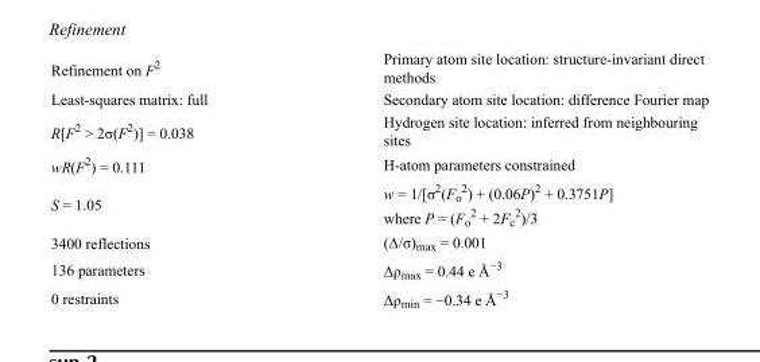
<table><tbody><tr><td>Refinement on F<sup>2</sup></td><td>Primary atom site location: structure-invariant direct methods</td></tr><tr><td>Least-squares matrix: full</td><td>Secondary atom site location: difference Fourier map</td></tr><tr><td>R[F<sup>2</sup> &gt; 2σ(F<sup>2</sup>)] = 0.038</td><td>Hydrogen site location: inferred from neighbouring sites</td></tr><tr><td>wR(F<sup>2</sup>) = 0.111</td><td>H-atom parameters constrained</td></tr><tr><td>S = 1.05</td><td>w = 1/[σ<sup>2</sup>(F<sub>o</sub> <sup>2</sup>) + (0.06P)<sup>2</sup> + 0.3751P] where P = (F<sub>o</sub> <sup>2</sup> + 2F<sub>c</sub> <sup>2</sup>)/3</td></tr><tr><td>3400 reflections</td><td>(Δ/σ)<sub>max</sub> = 0.001</td></tr><tr><td>136 parameters</td><td>Δρ<sub>max</sub> = 0.44 e Å<sup>−3</sup></td></tr><tr><td>0 restraints</td><td>Δρ<sub>min</sub> = −0.34 e Å<sup>−3</sup></td></tr></tbody></table>